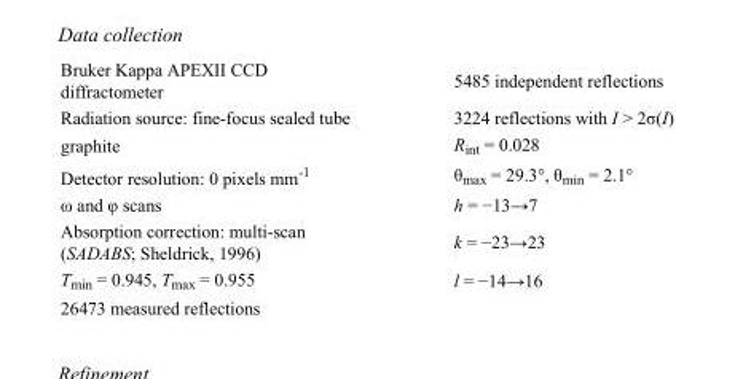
<table><tbody><tr><td>Bruker Kappa APEXII CCD diffractometer</td><td>5485 independent reflections</td></tr><tr><td>Radiation source: fine-focus sealed tube</td><td>3224 reflections with I &gt; 2σ(I)</td></tr><tr><td>graphite</td><td>R<sub>int</sub> = 0.028</td></tr><tr><td>Detector resolution: 0 pixels mm<sup>-1</sup></td><td>θ<sub>max</sub> = 29.3°, θ<sub>min</sub> = 2.1°</td></tr><tr><td>ω and φ scans</td><td>h = −13→7</td></tr><tr><td>Absorption correction: multi-scan (SADABS; Sheldrick, 1996)</td><td>k = −23→23</td></tr><tr><td>T<sub>min</sub> = 0.945, T<sub>max</sub> = 0.955</td><td>l = −14→16</td></tr><tr><td>26473 measured reflections</td><td></td></tr></tbody></table>